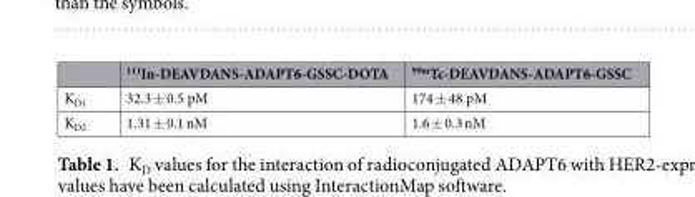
<table><thead><tr><td></td><td><sup>111</sup>In-DEAVDANS-ADAPT6-GSSC-DOTA</td><td><sup>99m</sup>Tc-DEAVDANS-ADAPT6-GSSC</td></tr></thead><tbody><tr><td>K<sub>D1</sub></td><td>32.3 ± 0.5 pM</td><td>174 ± 48 pM</td></tr><tr><td>K<sub>D2</sub></td><td>1.31 ± 0.1 nM</td><td>1.6 ± 0.3 nM</td></tr></tbody></table>